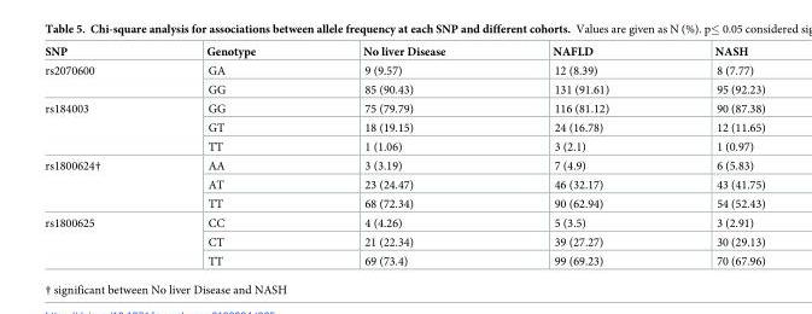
<table><thead><tr><td>SNP</td><td>Genotype</td><td>No liver Disease</td><td>NAFLD</td><td>NASH</td></tr></thead><tbody><tr><td rowspan="2">rs2070600</td><td>GA</td><td>9 (9.57)</td><td>12 (8.39)</td><td>8 (7.77)</td></tr><tr><td>GG</td><td>85 (90.43)</td><td>131 (91.61)</td><td>95 (92.23)</td></tr><tr><td rowspan="3">rs184003</td><td>GG</td><td>75 (79.79)</td><td>116 (81.12)</td><td>90 (87.38)</td></tr><tr><td>GT</td><td>18 (19.15)</td><td>24 (16.78)</td><td>12 (11.65)</td></tr><tr><td>TT</td><td>1 (1.06)</td><td>3 (2.1)</td><td>1 (0.97)</td></tr><tr><td rowspan="3">rs1800624†</td><td>AA</td><td>3 (3.19)</td><td>7 (4.9)</td><td>6 (5.83)</td></tr><tr><td>AT</td><td>23 (24.47)</td><td>46 (32.17)</td><td>43 (41.75)</td></tr><tr><td>TT</td><td>68 (72.34)</td><td>90 (62.94)</td><td>54 (52.43)</td></tr><tr><td rowspan="3">rs1800625</td><td>CC</td><td>4 (4.26)</td><td>5 (3.5)</td><td>3 (2.91)</td></tr><tr><td>CT</td><td>21 (22.34)</td><td>39 (27.27)</td><td>30 (29.13)</td></tr><tr><td>TT</td><td>69 (73.4)</td><td>99 (69.23)</td><td>70 (67.96)</td></tr></tbody></table>